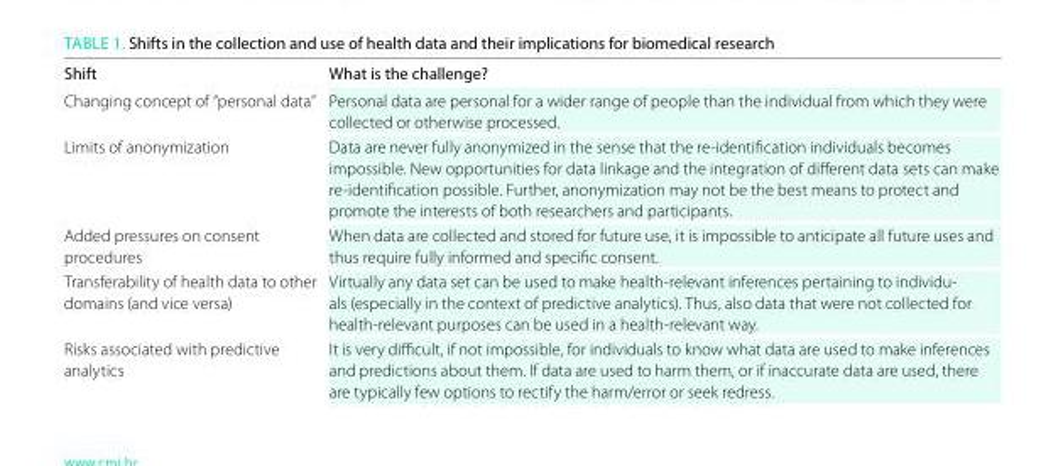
<table><thead><tr><td>Shift</td><td>What is the challenge?</td></tr></thead><tbody><tr><td>Changing concept of “personal data”</td><td>Personal data are personal for a wider range of people than the individual from which they were collected or otherwise processed.</td></tr><tr><td>Limits of anonymization</td><td>Data are never fully anonymized in the sense that the re-identification individuals becomes impossible. New opportunities for data linkage and the integration of different data sets can make re-identification possible. Further, anonymization may not be the best means to protect and promote the interests of both researchers and participants.</td></tr><tr><td>Added pressures on consent procedures</td><td>When data are collected and stored for future use, it is impossible to anticipate all future uses and thus require fully informed and specific consent.</td></tr><tr><td>Transferability of health data to other domains (and vice versa)</td><td>Virtually any data set can be used to make health-relevant inferences pertaining to individu- als (especially in the context of predictive analytics). Thus, also data that were not collected for health-relevant purposes can be used in a health-relevant way.</td></tr><tr><td>Risks associated with predictive analytics</td><td>It is very difficult, if not impossible, for individuals to know what data are used to make inferences and predictions about them. If data are used to harm them, or if inaccurate data are used, there are typically few options to rectify the harm/error or seek redress.</td></tr></tbody></table>